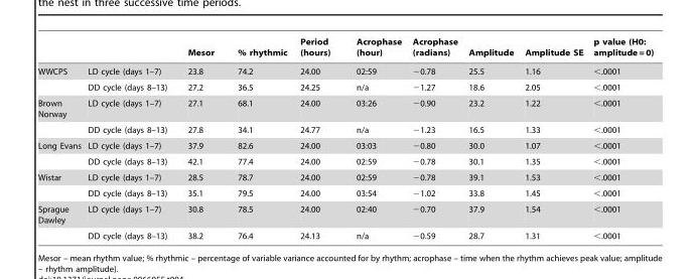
<table><thead><tr><td></td><td></td><td>Mesor</td><td>% rhythmic</td><td>Period (hours)</td><td>Acrophase (hour)</td><td>Acrophase (radians)</td><td>Amplitude</td><td>Amplitude SE</td><td>p value (H0: amplitude = 0)</td></tr></thead><tbody><tr><td rowspan="2">WWCPS</td><td>LD cycle (days 1–7)</td><td>23.8</td><td>74.2</td><td>24.00</td><td>02:59</td><td>−0.78</td><td>25.5</td><td>1.16</td><td>&lt;.0001</td></tr><tr><td>DD cycle (days 8–13)</td><td>27.2</td><td>36.5</td><td>24.25</td><td>n/a</td><td>−1.27</td><td>18.6</td><td>2.05</td><td>&lt;.0001</td></tr><tr><td rowspan="2">Brown Norway</td><td>LD cycle (days 1–7)</td><td>27.1</td><td>68.1</td><td>24.00</td><td>03:26</td><td>−0.90</td><td>23.2</td><td>1.22</td><td>&lt;.0001</td></tr><tr><td>DD cycle (days 8–13)</td><td>27.8</td><td>34.1</td><td>24.77</td><td>n/a</td><td>−1.23</td><td>16.5</td><td>1.33</td><td>&lt;.0001</td></tr><tr><td rowspan="2">Long Evans</td><td>LD cycle (days 1–7)</td><td>37.9</td><td>82.6</td><td>24.00</td><td>03:03</td><td>−0.80</td><td>30.0</td><td>1.07</td><td>&lt;.0001</td></tr><tr><td>DD cycle (days 8–13)</td><td>42.1</td><td>77.4</td><td>24.00</td><td>02:59</td><td>−0.78</td><td>30.1</td><td>1.35</td><td>&lt;.0001</td></tr><tr><td rowspan="2">Wistar</td><td>LD cycle (days 1–7)</td><td>28.5</td><td>78.7</td><td>24.00</td><td>02:59</td><td>−0.78</td><td>39.1</td><td>1.53</td><td>&lt;.0001</td></tr><tr><td>DD cycle (days 8–13)</td><td>35.1</td><td>79.5</td><td>24.00</td><td>03:54</td><td>−1.02</td><td>33.8</td><td>1.45</td><td>&lt;.0001</td></tr><tr><td rowspan="2">Sprague Dawley</td><td>LD cycle (days 1–7)</td><td>30.8</td><td>78.5</td><td>24.00</td><td>02:40</td><td>−0.70</td><td>37.9</td><td>1.54</td><td>&lt;.0001</td></tr><tr><td>DD cycle (days 8–13)</td><td>38.2</td><td>76.4</td><td>24.13</td><td>n/a</td><td>−0.59</td><td>28.7</td><td>1.31</td><td>&lt;.0001</td></tr></tbody></table>